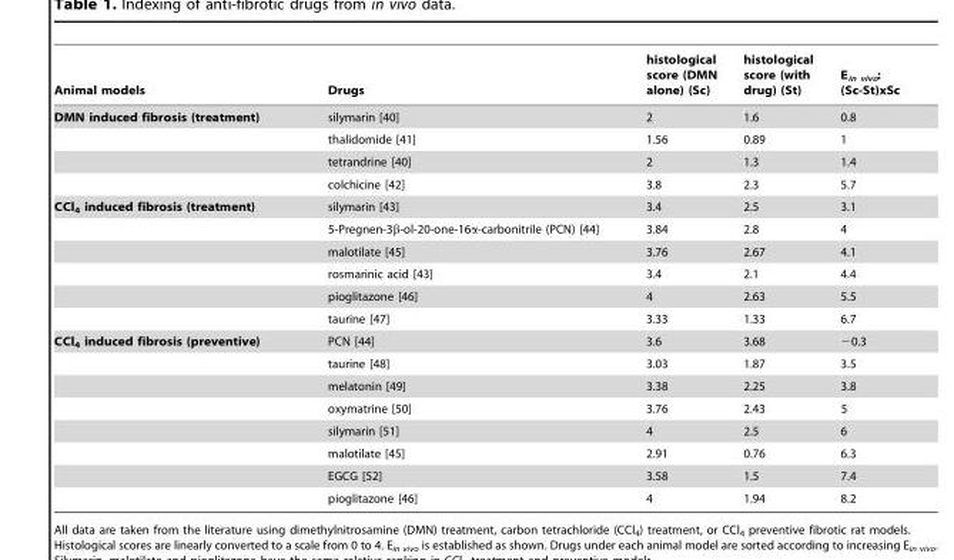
<table><thead><tr><td>Animal models</td><td>Drugs</td><td>histological score (DMN alone) (Sc)</td><td>histological score (with drug) (St)</td><td>E<sub>in vivo</sub>: (Sc-St)xSc</td></tr></thead><tbody><tr><td rowspan="4">DMN induced fibrosis (treatment)</td><td>silymarin [40]</td><td>2</td><td>1.6</td><td>0.8</td></tr><tr><td>thalidomide [41]</td><td>1.56</td><td>0.89</td><td>1</td></tr><tr><td>tetrandrine [40]</td><td>2</td><td>1.3</td><td>1.4</td></tr><tr><td>colchicine [42]</td><td>3.8</td><td>2.3</td><td>5.7</td></tr><tr><td rowspan="6">CCl<sub>4</sub> induced fibrosis (treatment)</td><td>silymarin [43]</td><td>3.4</td><td>2.5</td><td>3.1</td></tr><tr><td>5-Pregnen-3β-ol-20-one-16α-carbonitrile (PCN) [44]</td><td>3.84</td><td>2.8</td><td>4</td></tr><tr><td>malotilate [45]</td><td>3.76</td><td>2.67</td><td>4.1</td></tr><tr><td>rosmarinic acid [43]</td><td>3.4</td><td>2.1</td><td>4.4</td></tr><tr><td>pioglitazone [46]</td><td>4</td><td>2.63</td><td>5.5</td></tr><tr><td>taurine [47]</td><td>3.33</td><td>1.33</td><td>6.7</td></tr><tr><td rowspan="8">CCl<sub>4</sub> induced fibrosis (preventive)</td><td>PCN [44]</td><td>3.6</td><td>3.68</td><td>−0.3</td></tr><tr><td>taurine [48]</td><td>3.03</td><td>1.87</td><td>3.5</td></tr><tr><td>melatonin [49]</td><td>3.38</td><td>2.25</td><td>3.8</td></tr><tr><td>oxymatrine [50]</td><td>3.76</td><td>2.43</td><td>5</td></tr><tr><td>silymarin [51]</td><td>4</td><td>2.5</td><td>6</td></tr><tr><td>malotilate [45]</td><td>2.91</td><td>0.76</td><td>6.3</td></tr><tr><td>EGCG [52]</td><td>3.58</td><td>1.5</td><td>7.4</td></tr><tr><td>pioglitazone [46]</td><td>4</td><td>1.94</td><td>8.2</td></tr></tbody></table>